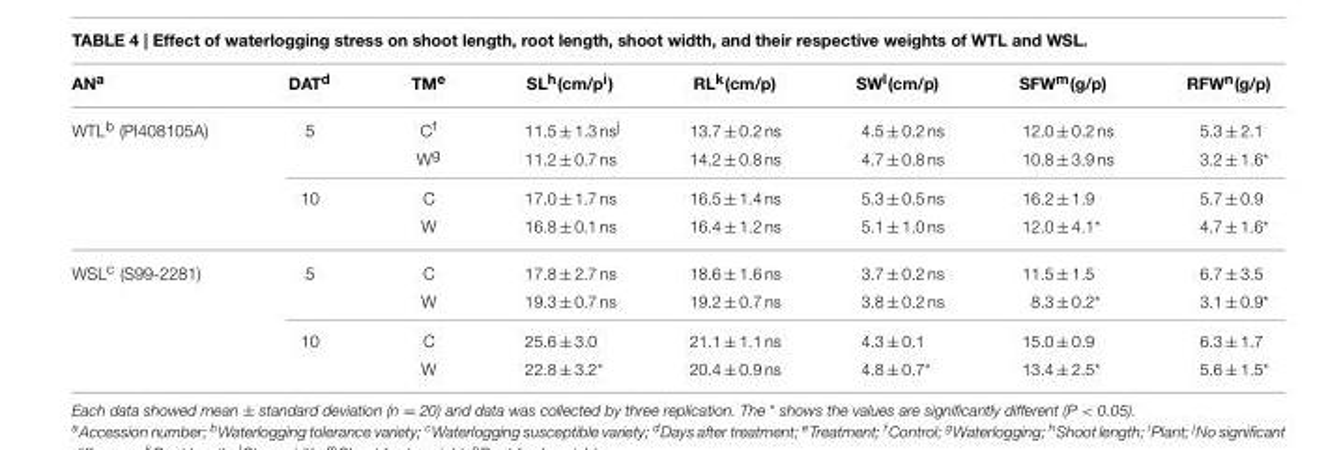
<table><thead><tr><td>AN<sup>a</sup></td><td>DAT<sup>d</sup></td><td>TM<sup>e</sup></td><td>SL<sup>h</sup>(cm/p<sup>i</sup>)</td><td>RL<sup>k</sup>(cm/p)</td><td>SW<sup>l</sup>(cm/p)</td><td>SFW<sup>m</sup>(g/p)</td><td>RFW<sup>n</sup>(g/p)</td></tr></thead><tbody><tr><td rowspan="4">WTL<sup>b</sup> (PI408105A)</td><td>5</td><td>C<sup>f</sup></td><td>11.5 ± 1.3 ns<sup>j</sup></td><td>13.7 ± 0.2 ns</td><td>4.5 ± 0.2 ns</td><td>12.0 ± 0.2 ns</td><td>5.3 ± 2.1</td></tr><tr><td></td><td>W<sup>g</sup></td><td>11.2 ± 0.7 ns</td><td>14.2 ± 0.8 ns</td><td>4.7 ± 0.8 ns</td><td>10.8 ± 3.9 ns</td><td>3.2 ± 1.6*</td></tr><tr><td>10</td><td>C</td><td>17.0 ± 1.7 ns</td><td>16.5 ± 1.4 ns</td><td>5.3 ± 0.5 ns</td><td>16.2 ± 1.9</td><td>5.7 ± 0.9</td></tr><tr><td></td><td>W</td><td>16.8 ± 0.1 ns</td><td>16.4 ± 1.2 ns</td><td>5.1 ± 1.0 ns</td><td>12.0 ± 4.1*</td><td>4.7 ± 1.6*</td></tr><tr><td rowspan="4">WSL<sup>c</sup> (S99-2281)</td><td>5</td><td>C</td><td>17.8 ± 2.7 ns</td><td>18.6 ± 1.6 ns</td><td>3.7 ± 0.2 ns</td><td>11.5 ± 1.5</td><td>6.7 ± 3.5</td></tr><tr><td></td><td>W</td><td>19.3 ± 0.7 ns</td><td>19.2 ± 0.7 ns</td><td>3.8 ± 0.2 ns</td><td>8.3 ± 0.2*</td><td>3.1 ± 0.9*</td></tr><tr><td>10</td><td>C</td><td>25.6 ± 3.0</td><td>21.1 ± 1.1 ns</td><td>4.3 ± 0.1</td><td>15.0 ± 0.9</td><td>6.3 ± 1.7</td></tr><tr><td></td><td>W</td><td>22.8 ± 3.2*</td><td>20.4 ± 0.9 ns</td><td>4.8 ± 0.7*</td><td>13.4 ± 2.5*</td><td>5.6 ± 1.5*</td></tr></tbody></table>